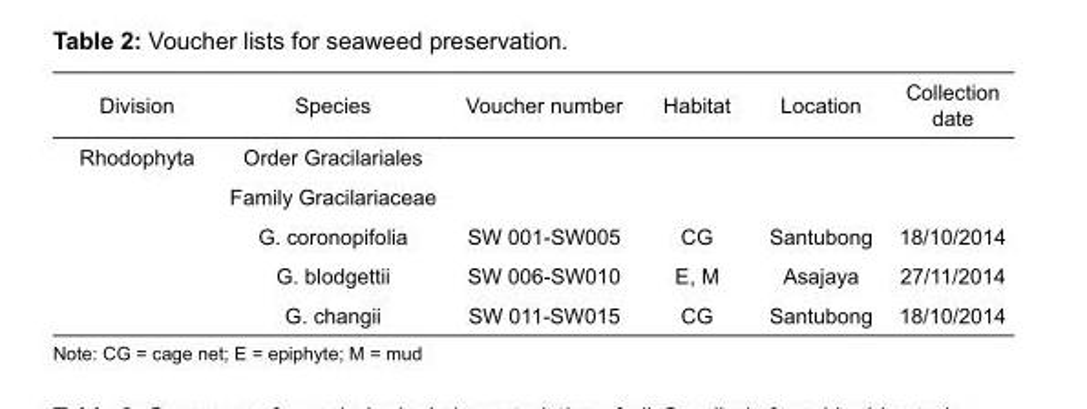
<table><thead><tr><td>Division</td><td>Species</td><td>Voucher number</td><td>Habitat</td><td>Location</td><td>Collection date</td></tr></thead><tbody><tr><td rowspan="5">Rhodophyta</td><td>Order Gracilariales</td><td></td><td></td><td></td><td></td></tr><tr><td>Family Gracilariaceae</td><td></td><td></td><td></td><td></td></tr><tr><td>G. coronopifolia</td><td>SW 001-SW005</td><td>CG</td><td>Santubong</td><td>18/10/2014</td></tr><tr><td>G. blodgettii</td><td>SW 006-SW010</td><td>E, M</td><td>Asajaya</td><td>27/11/2014</td></tr><tr><td>G. changii</td><td>SW 011-SW015</td><td>CG</td><td>Santubong</td><td>18/10/2014</td></tr></tbody></table>